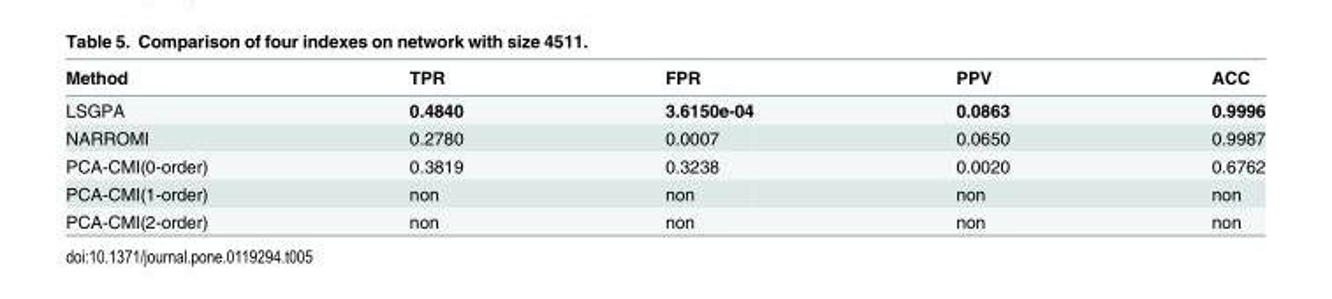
<table><thead><tr><td>Method</td><td>TPR</td><td>FPR</td><td>PPV</td><td>ACC</td></tr></thead><tbody><tr><td>LSGPA</td><td>0.4840</td><td>3.6150e-04</td><td>0.0863</td><td>0.9996</td></tr><tr><td>NARROMI</td><td>0.2780</td><td>0.0007</td><td>0.0650</td><td>0.9987</td></tr><tr><td>PCA-CMI(0-order)</td><td>0.3819</td><td>0.3238</td><td>0.0020</td><td>0.6762</td></tr><tr><td>PCA-CMI(1-order)</td><td>non</td><td>non</td><td>non</td><td>non</td></tr><tr><td>PCA-CMI(2-order)</td><td>non</td><td>non</td><td>non</td><td>non</td></tr></tbody></table>